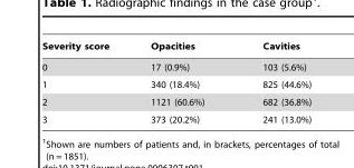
<table><thead><tr><td>Severity score</td><td>Opacities</td><td>Cavities</td></tr></thead><tbody><tr><td>0</td><td>17 (0.9%)</td><td>103 (5.6%)</td></tr><tr><td>1</td><td>340 (18.4%)</td><td>825 (44.6%)</td></tr><tr><td>2</td><td>1121 (60.6%)</td><td>682 (36.8%)</td></tr><tr><td>3</td><td>373 (20.2%)</td><td>241 (13.0%)</td></tr></tbody></table>